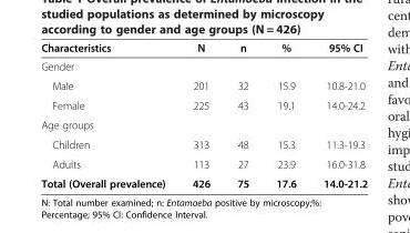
<table><thead><tr><td>Characteristics</td><td>N</td><td>n</td><td>%</td><td>95% CI</td></tr></thead><tbody><tr><td colspan="5">Gender</td></tr><tr><td>Male</td><td>201</td><td>32</td><td>15.9</td><td>10.8-21.0</td></tr><tr><td>Female</td><td>225</td><td>43</td><td>19.1</td><td>14.0-24.2</td></tr><tr><td colspan="5">Age groups</td></tr><tr><td>Children</td><td>313</td><td>48</td><td>15.3</td><td>11.3-19.3</td></tr><tr><td>Adults</td><td>113</td><td>27</td><td>23.9</td><td>16.0-31.8</td></tr><tr><td>Total (Overall prevalence)</td><td>426</td><td>75</td><td>17.6</td><td>14.0-21.2</td></tr></tbody></table>